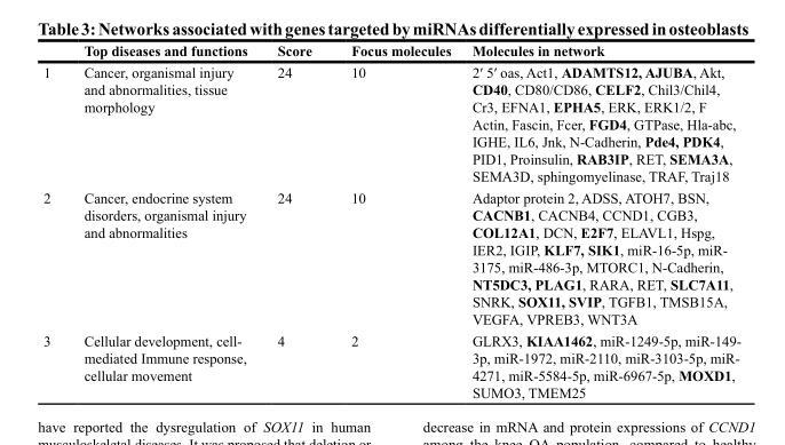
<table><thead><tr><td></td><td>Top diseases and functions</td><td>Score</td><td>Focus molecules</td><td>Molecules in network</td></tr></thead><tbody><tr><td>1</td><td>Cancer, organismal injury and abnormalities, tissue morphology</td><td>24</td><td>10</td><td>2′ 5′ oas, Act1, ADAMTS12, AJUBA, Akt, CD40, CD80/CD86, CELF2, Chil3/Chil4, Cr3, EFNA1, EPHA5, ERK, ERK1/2, F Actin, Fascin, Fcer, FGD4, GTPase, Hla-abc, IGHE, IL6, Jnk, N-Cadherin, Pde4, PDK4, PID1, Proinsulin, RAB3IP, RET, SEMA3A, SEMA3D, sphingomyelinase, TRAF, Traj18</td></tr><tr><td>2</td><td>Cancer, endocrine system disorders, organismal injury and abnormalities</td><td>24</td><td>10</td><td>Adaptor protein 2, ADSS, ATOH7, BSN, CACNB1, CACNB4, CCND1, CGB3, COL12A1, DCN, E2F7, ELAVL1, Hspg, IER2, IGIP, KLF7, SIK1, miR-16-5p, miR- 3175, miR-486-3p, MTORC1, N-Cadherin, NT5DC3, PLAG1, RARA, RET, SLC7A11, SNRK, SOX11, SVIP, TGFB1, TMSB15A, VEGFA, VPREB3, WNT3A</td></tr><tr><td>3</td><td>Cellular development, cell- mediated Immune response, cellular movement</td><td>4</td><td>2</td><td>GLRX3, KIAA1462, miR-1249-5p, miR-149- 3p, miR-1972, miR-2110, miR-3103-5p, miR- 4271, miR-5584-5p, miR-6967-5p, MOXD1, SUMO3, TMEM25</td></tr></tbody></table>